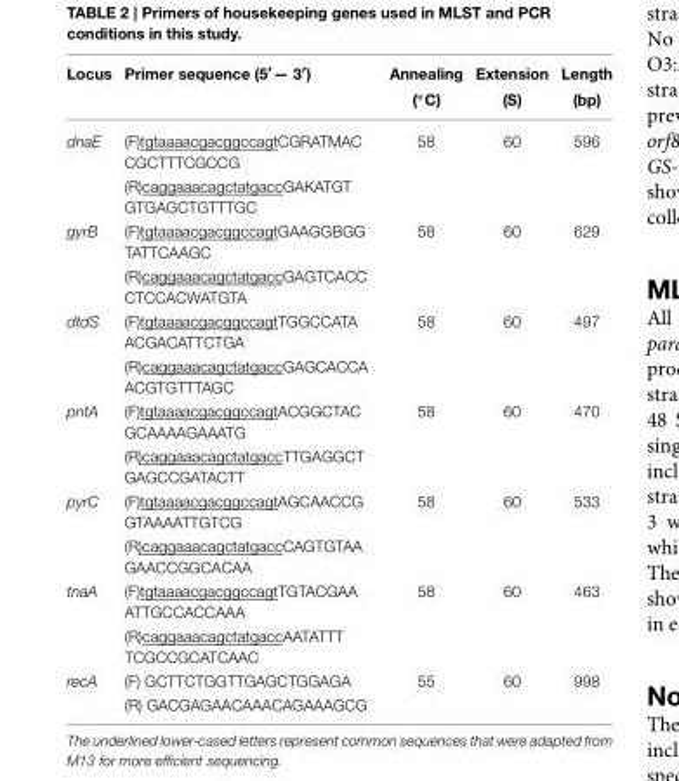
<table><thead><tr><td>Locus</td><td>Primer sequence (5′— 3′)</td><td>Annealing (◦C)</td><td>Extension (S)</td><td>Length (bp)</td></tr></thead><tbody><tr><td rowspan="2">dnaE</td><td>(F)tgtaaaacgacggccagtCGRATMAC CGCTTTCGCCG</td><td>58</td><td>60</td><td>596</td></tr><tr><td>(R)caggaaacagctatgaccGAKATGT GTGAGCTGTTTGC</td><td></td><td></td><td></td></tr><tr><td rowspan="2">gyrB</td><td>(F)tgtaaaacgacggccagtGAAGGBGG TATTCAAGC</td><td>58</td><td>60</td><td>629</td></tr><tr><td>(R)caggaaacagctatgaccGAGTCACC CTCCACWATGTA</td><td></td><td></td><td></td></tr><tr><td rowspan="2">dtdS</td><td>(F)tgtaaaacgacggccagtTGGCCATA ACGACATTCTGA</td><td>58</td><td>60</td><td>497</td></tr><tr><td>(R)caggaaacagctatgaccGAGCACCA ACGTGTTTAGC</td><td></td><td></td><td></td></tr><tr><td rowspan="2">pntA</td><td>(F)tgtaaaacgacggccagtACGGCTAC GCAAAAGAAATG</td><td>58</td><td>60</td><td>470</td></tr><tr><td>(R)caggaaacagctatgaccTTGAGGCT GAGCCGATACTT</td><td></td><td></td><td></td></tr><tr><td rowspan="2">pyrC</td><td>(F)tgtaaaacgacggccagtAGCAACCG GTAAAATTGTCG</td><td>58</td><td>60</td><td>533</td></tr><tr><td>(R)caggaaacagctatgaccCAGTGTAA GAACCGGCACAA</td><td></td><td></td><td></td></tr><tr><td rowspan="2">tnaA</td><td>(F)tgtaaaacgacggccagtTGTACGAA ATTGCCACCAAA</td><td>58</td><td>60</td><td>463</td></tr><tr><td>(R)caggaaacagctatgaccAATATTT TCGCCGCATCAAC</td><td></td><td></td><td></td></tr><tr><td rowspan="2">recA</td><td>(F) GCTTCTGGTTGAGCTGGAGA</td><td>55</td><td>60</td><td>998</td></tr><tr><td>(R) GACGAGAACAAACAGAAAGCG</td><td></td><td></td><td></td></tr></tbody></table>